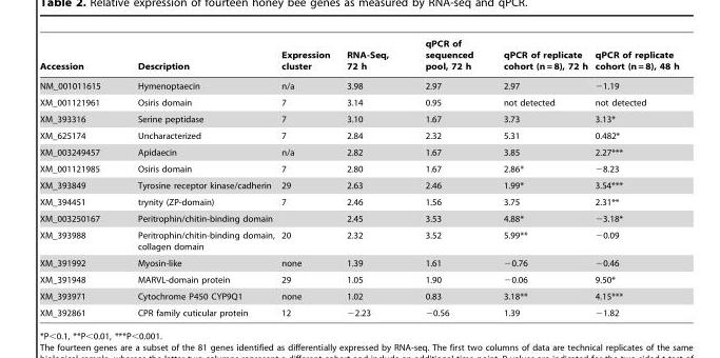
<table><thead><tr><td>Accession</td><td>Description</td><td>Expression cluster</td><td>RNA-Seq, 72 h</td><td>qPCR of sequenced pool, 72 h</td><td>qPCR of replicate cohort (n = 8), 72 h</td><td>qPCR of replicate cohort (n = 8), 48 h</td></tr></thead><tbody><tr><td>NM_001011615</td><td>Hymenoptaecin</td><td>n/a</td><td>3.98</td><td>2.97</td><td>2.97</td><td>−1.19</td></tr><tr><td>XM_001121961</td><td>Osiris domain</td><td>7</td><td>3.14</td><td>0.95</td><td>not detected</td><td>not detected</td></tr><tr><td>XM_393316</td><td>Serine peptidase</td><td>7</td><td>3.10</td><td>1.67</td><td>3.73</td><td>3.13*</td></tr><tr><td>XM_625174</td><td>Uncharacterized</td><td>7</td><td>2.84</td><td>2.32</td><td>5.31</td><td>0.482*</td></tr><tr><td>XM_003249457</td><td>Apidaecin</td><td>n/a</td><td>2.82</td><td>1.67</td><td>3.85</td><td>2.27***</td></tr><tr><td>XM_001121985</td><td>Osiris domain</td><td>7</td><td>2.80</td><td>1.67</td><td>2.86*</td><td>−8.23</td></tr><tr><td>XM_393849</td><td>Tyrosine receptor kinase/cadherin</td><td>29</td><td>2.63</td><td>2.46</td><td>1.99*</td><td>3.54***</td></tr><tr><td>XM_394451</td><td>trynity (ZP-domain)</td><td>7</td><td>2.46</td><td>1.56</td><td>3.75</td><td>2.31**</td></tr><tr><td>XM_003250167</td><td>Peritrophin/chitin-binding domain</td><td></td><td>2.45</td><td>3.53</td><td>4.88*</td><td>−3.18*</td></tr><tr><td>XM_393988</td><td>Peritrophin/chitin-binding domain, collagen domain</td><td>20</td><td>2.32</td><td>3.52</td><td>5.99**</td><td>−0.09</td></tr><tr><td>XM_391992</td><td>Myosin-like</td><td>none</td><td>1.39</td><td>1.61</td><td>−0.76</td><td>−0.46</td></tr><tr><td>XM_391948</td><td>MARVL-domain protein</td><td>29</td><td>1.05</td><td>1.90</td><td>−0.06</td><td>9.50*</td></tr><tr><td>XM_393971</td><td>Cytochrome P450 CYP9Q1</td><td>none</td><td>1.02</td><td>0.83</td><td>3.18**</td><td>4.15***</td></tr><tr><td>XM_392861</td><td>CPR family cuticular protein</td><td>12</td><td>−2.23</td><td>−0.56</td><td>1.39</td><td>−1.82</td></tr></tbody></table>